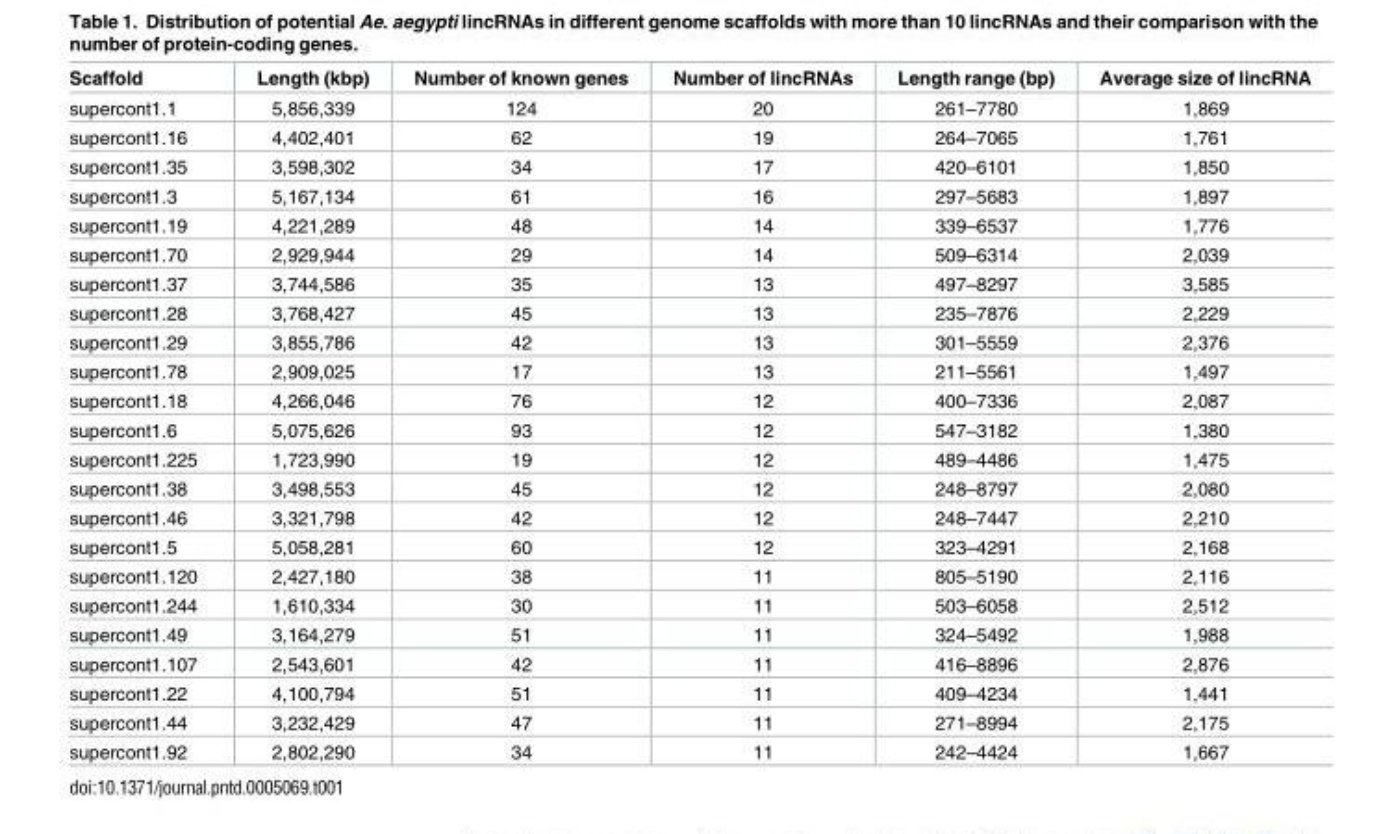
<table><thead><tr><td>Scaffold</td><td>Length (kbp)</td><td>Number of known genes</td><td>Number of lincRNAs</td><td>Length range (bp)</td><td>Average size of lincRNA</td></tr></thead><tbody><tr><td>supercont1.1</td><td>5,856,339</td><td>124</td><td>20</td><td>261–7780</td><td>1,869</td></tr><tr><td>supercont1.16</td><td>4,402,401</td><td>62</td><td>19</td><td>264–7065</td><td>1,761</td></tr><tr><td>supercont1.35</td><td>3,598,302</td><td>34</td><td>17</td><td>420–6101</td><td>1,850</td></tr><tr><td>supercont1.3</td><td>5,167,134</td><td>61</td><td>16</td><td>297–5683</td><td>1,897</td></tr><tr><td>supercont1.19</td><td>4,221,289</td><td>48</td><td>14</td><td>339–6537</td><td>1,776</td></tr><tr><td>supercont1.70</td><td>2,929,944</td><td>29</td><td>14</td><td>509–6314</td><td>2,039</td></tr><tr><td>supercont1.37</td><td>3,744,586</td><td>35</td><td>13</td><td>497–8297</td><td>3,585</td></tr><tr><td>supercont1.28</td><td>3,768,427</td><td>45</td><td>13</td><td>235–7876</td><td>2,229</td></tr><tr><td>supercont1.29</td><td>3,855,786</td><td>42</td><td>13</td><td>301–5559</td><td>2,376</td></tr><tr><td>supercont1.78</td><td>2,909,025</td><td>17</td><td>13</td><td>211–5561</td><td>1,497</td></tr><tr><td>supercont1.18</td><td>4,266,046</td><td>76</td><td>12</td><td>400–7336</td><td>2,087</td></tr><tr><td>supercont1.6</td><td>5,075,626</td><td>93</td><td>12</td><td>547–3182</td><td>1,380</td></tr><tr><td>supercont1.225</td><td>1,723,990</td><td>19</td><td>12</td><td>489–4486</td><td>1,475</td></tr><tr><td>supercont1.38</td><td>3,498,553</td><td>45</td><td>12</td><td>248–8797</td><td>2,080</td></tr><tr><td>supercont1.46</td><td>3,321,798</td><td>42</td><td>12</td><td>248–7447</td><td>2,210</td></tr><tr><td>supercont1.5</td><td>5,058,281</td><td>60</td><td>12</td><td>323–4291</td><td>2,168</td></tr><tr><td>supercont1.120</td><td>2,427,180</td><td>38</td><td>11</td><td>805–5190</td><td>2,116</td></tr><tr><td>supercont1.244</td><td>1,610,334</td><td>30</td><td>11</td><td>503–6058</td><td>2,512</td></tr><tr><td>supercont1.49</td><td>3,164,279</td><td>51</td><td>11</td><td>324–5492</td><td>1,988</td></tr><tr><td>supercont1.107</td><td>2,543,601</td><td>42</td><td>11</td><td>416–8896</td><td>2,876</td></tr><tr><td>supercont1.22</td><td>4,100,794</td><td>51</td><td>11</td><td>409–4234</td><td>1,441</td></tr><tr><td>supercont1.44</td><td>3,232,429</td><td>47</td><td>11</td><td>271–8994</td><td>2,175</td></tr><tr><td>supercont1.92</td><td>2,802,290</td><td>34</td><td>11</td><td>242–4424</td><td>1,667</td></tr></tbody></table>